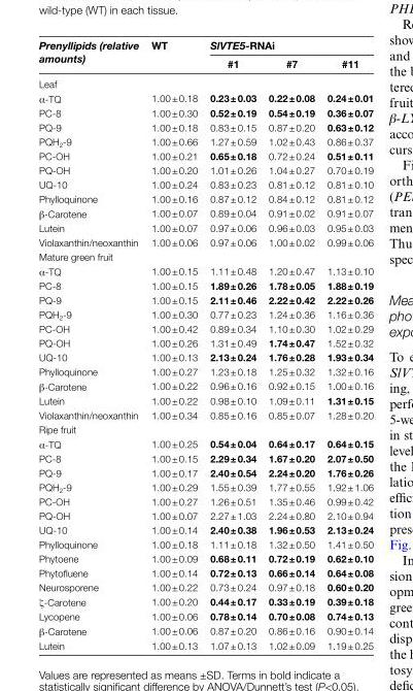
<table><thead><tr><td rowspan="2">Prenyllipids (relative amounts)</td><td rowspan="2">WT</td><td colspan="3">SlVTE5-RNAi</td></tr><tr><td>#1</td><td>#7</td><td>#11</td></tr></thead><tbody><tr><td colspan="5">Leaf</td></tr><tr><td>α-TQ</td><td>1.00 ± 0.18</td><td>0.23 ± 0.03</td><td>0.22 ± 0.08</td><td>0.24 ± 0.01</td></tr><tr><td>PC-8</td><td>1.00 ± 0.30</td><td>0.52 ± 0.19</td><td>0.54 ± 0.19</td><td>0.36 ± 0.07</td></tr><tr><td>PQ-9</td><td>1.00 ± 0.18</td><td>0.83 ± 0.15</td><td>0.87 ± 0.20</td><td>0.63 ± 0.12</td></tr><tr><td>PQH<sub>2</sub>-9</td><td>1.00 ± 0.66</td><td>1.27 ± 0.59</td><td>1.02 ± 0.43</td><td>0.86 ± 0.37</td></tr><tr><td>PC-OH</td><td>1.00 ± 0.21</td><td>0.65 ± 0.18</td><td>0.72 ± 0.24</td><td>0.51 ± 0.11</td></tr><tr><td>PQ-OH</td><td>1.00 ± 0.20</td><td>1.01 ± 0.26</td><td>1.04 ± 0.27</td><td>0.70 ± 0.19</td></tr><tr><td>UQ-10</td><td>1.00 ± 0.24</td><td>0.83 ± 0.23</td><td>0.81 ± 0.12</td><td>0.81 ± 0.10</td></tr><tr><td>Phylloquinone</td><td>1.00 ± 0.16</td><td>0.87 ± 0.12</td><td>0.84 ± 0.12</td><td>0.81 ± 0.12</td></tr><tr><td>β-Carotene</td><td>1.00 ± 0.07</td><td>0.89 ± 0.04</td><td>0.91 ± 0.02</td><td>0.91 ± 0.07</td></tr><tr><td>Lutein</td><td>1.00 ± 0.07</td><td>0.97 ± 0.06</td><td>0.96 ± 0.03</td><td>0.95 ± 0.03</td></tr><tr><td>Violaxanthin/neoxanthin</td><td>1.00 ± 0.06</td><td>0.97 ± 0.06</td><td>1.00 ± 0.02</td><td>0.99 ± 0.06</td></tr><tr><td colspan="5">Mature green fruit</td></tr><tr><td>α-TQ</td><td>1.00 ± 0.15</td><td>1.11 ± 0.48</td><td>1.20 ± 0.47</td><td>1.13 ± 0.10</td></tr><tr><td>PC-8</td><td>1.00 ± 0.15</td><td>1.89 ± 0.26</td><td>1.78 ± 0.05</td><td>1.88 ± 0.19</td></tr><tr><td>PQ-9</td><td>1.00 ± 0.15</td><td>2.11 ± 0.46</td><td>2.22 ± 0.42</td><td>2.22 ± 0.26</td></tr><tr><td>PQH<sub>2</sub>-9</td><td>1.00 ± 0.30</td><td>0.77 ± 0.23</td><td>1.24 ± 0.36</td><td>1.16 ± 0.36</td></tr><tr><td>PC-OH</td><td>1.00 ± 0.42</td><td>0.89 ± 0.34</td><td>1.10 ± 0.30</td><td>1.02 ± 0.29</td></tr><tr><td>PQ-OH</td><td>1.00 ± 0.26</td><td>1.31 ± 0.49</td><td>1.74 ± 0.47</td><td>1.52 ± 0.32</td></tr><tr><td>UQ-10</td><td>1.00 ± 0.13</td><td>2.13 ± 0.24</td><td>1.76 ± 0.28</td><td>1.93 ± 0.34</td></tr><tr><td>Phylloquinone</td><td>1.00 ± 0.27</td><td>1.23 ± 0.18</td><td>1.25 ± 0.32</td><td>1.32 ± 0.16</td></tr><tr><td>β-Carotene</td><td>1.00 ± 0.22</td><td>0.96 ± 0.16</td><td>0.92 ± 0.15</td><td>1.00 ± 0.16</td></tr><tr><td>Lutein</td><td>1.00 ± 0.22</td><td>0.98 ± 0.10</td><td>1.09 ± 0.11</td><td>1.31 ± 0.15</td></tr><tr><td>Violaxanthin/neoxanthin</td><td>1.00 ± 0.34</td><td>0.85 ± 0.16</td><td>0.85 ± 0.07</td><td>1.28 ± 0.20</td></tr><tr><td colspan="5">Ripe fruit</td></tr><tr><td>α-TQ</td><td>1.00 ± 0.25</td><td>0.54 ± 0.04</td><td>0.64 ± 0.17</td><td>0.64 ± 0.15</td></tr><tr><td>PC-8</td><td>1.00 ± 0.15</td><td>2.29 ± 0.34</td><td>1.67 ± 0.20</td><td>2.07 ± 0.50</td></tr><tr><td>PQ-9</td><td>1.00 ± 0.17</td><td>2.40 ± 0.54</td><td>2.24 ± 0.20</td><td>1.76 ± 0.26</td></tr><tr><td>PQH<sub>2</sub>-9</td><td>1.00 ± 0.29</td><td>1.55 ± 0.39</td><td>1.77 ± 0.55</td><td>1.92 ± 1.06</td></tr><tr><td>PC-OH</td><td>1.00 ± 0.27</td><td>1.26 ± 0.51</td><td>1.35 ± 0.46</td><td>0.99 ± 0.42</td></tr><tr><td>PQ-OH</td><td>1.00 ± 0.07</td><td>2.27 ± 1.03</td><td>2.24 ± 0.80</td><td>2.10 ± 0.94</td></tr><tr><td>UQ-10</td><td>1.00 ± 0.14</td><td>2.40 ± 0.38</td><td>1.96 ± 0.53</td><td>2.13 ± 0.24</td></tr><tr><td>Phylloquinone</td><td>1.00 ± 0.18</td><td>1.11 ± 0.18</td><td>1.32 ± 0.50</td><td>1.41 ± 0.50</td></tr><tr><td>Phytoene</td><td>1.00 ± 0.09</td><td>0.68 ± 0.11</td><td>0.72 ± 0.19</td><td>0.62 ± 0.10</td></tr><tr><td>Phytofluene</td><td>1.00 ± 0.14</td><td>0.72 ± 0.13</td><td>0.66 ± 0.14</td><td>0.64 ± 0.08</td></tr><tr><td>Neurosporene</td><td>1.00 ± 0.22</td><td>0.73 ± 0.24</td><td>0.97 ± 0.18</td><td>0.60 ± 0.20</td></tr><tr><td>ζ-Carotene</td><td>1.00 ± 0.20</td><td>0.44 ± 0.17</td><td>0.33 ± 0.19</td><td>0.39 ± 0.18</td></tr><tr><td>Lycopene</td><td>1.00 ± 0.06</td><td>0.78 ± 0.14</td><td>0.70 ± 0.08</td><td>0.74 ± 0.13</td></tr><tr><td>β-Carotene</td><td>1.00 ± 0.06</td><td>0.87 ± 0.20</td><td>0.86 ± 0.16</td><td>0.90 ± 0.14</td></tr><tr><td>Lutein</td><td>1.00 ± 0.13</td><td>1.07 ± 0.13</td><td>1.02 ± 0.09</td><td>1.19 ± 0.25</td></tr></tbody></table>